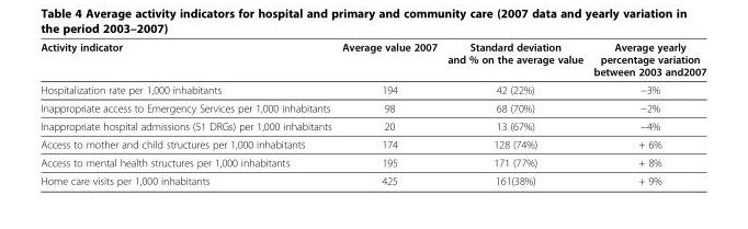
<table><thead><tr><td>Activity indicator</td><td>Average value 2007</td><td>Standard deviation and % on the average value</td><td>Average yearly percentage variation between 2003 and2007</td></tr></thead><tbody><tr><td>Hospitalization rate per 1,000 inhabitants</td><td>194</td><td>42 (22%)</td><td>−3%</td></tr><tr><td>Inappropriate access to Emergency Services per 1,000 inhabitants</td><td>98</td><td>68 (70%)</td><td>−2%</td></tr><tr><td>Inappropriate hospital admissions (51 DRGs) per 1,000 inhabitants</td><td>20</td><td>13 (67%)</td><td>−4%</td></tr><tr><td>Access to mother and child structures per 1,000 inhabitants</td><td>174</td><td>128 (74%)</td><td>+ 6%</td></tr><tr><td>Access to mental health structures per 1,000 inhabitants</td><td>195</td><td>171 (77%)</td><td>+ 8%</td></tr><tr><td>Home care visits per 1,000 inhabitants</td><td>425</td><td>161(38%)</td><td>+ 9%</td></tr></tbody></table>